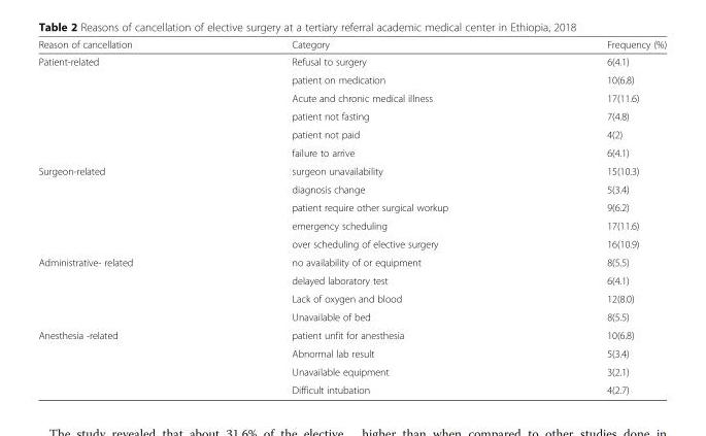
<table><thead><tr><td>Reason of cancellation</td><td>Category</td><td>Frequency (%)</td></tr></thead><tbody><tr><td rowspan="6">Patient-related</td><td>Refusal to surgery</td><td>6(4.1)</td></tr><tr><td>patient on medication</td><td>10(6.8)</td></tr><tr><td>Acute and chronic medical illness</td><td>17(11.6)</td></tr><tr><td>patient not fasting</td><td>7(4.8)</td></tr><tr><td>patient not paid</td><td>4(2)</td></tr><tr><td>failure to arrive</td><td>6(4.1)</td></tr><tr><td rowspan="5">Surgeon-related</td><td>surgeon unavailability</td><td>15(10.3)</td></tr><tr><td>diagnosis change</td><td>5(3.4)</td></tr><tr><td>patient require other surgical workup</td><td>9(6.2)</td></tr><tr><td>emergency scheduling</td><td>17(11.6)</td></tr><tr><td>over scheduling of elective surgery</td><td>16(10.9)</td></tr><tr><td rowspan="4">Administrative- related</td><td>no availability of or equipment</td><td>8(5.5)</td></tr><tr><td>delayed laboratory test</td><td>6(4.1)</td></tr><tr><td>Lack of oxygen and blood</td><td>12(8.0)</td></tr><tr><td>Unavailable of bed</td><td>8(5.5)</td></tr><tr><td rowspan="4">Anesthesia -related</td><td>patient unfit for anesthesia</td><td>10(6.8)</td></tr><tr><td>Abnormal lab result</td><td>5(3.4)</td></tr><tr><td>Unavailable equipment</td><td>3(2.1)</td></tr><tr><td>Difficult intubation</td><td>4(2.7)</td></tr></tbody></table>